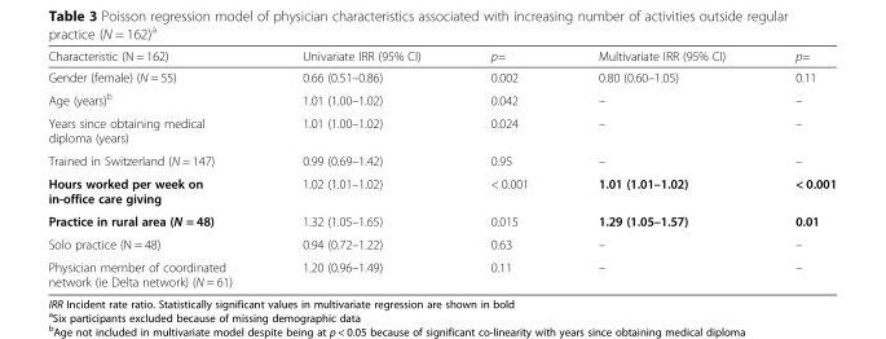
<table><thead><tr><td>Characteristic (N = 162)</td><td>Univariate IRR (95% CI)</td><td>p=</td><td>Multivariate IRR (95% CI)</td><td>p=</td></tr></thead><tbody><tr><td>Gender (female) (N = 55)</td><td>0.66 (0.51–0.86)</td><td>0.002</td><td>0.80 (0.60–1.05)</td><td>0.11</td></tr><tr><td>Age (years)<sup>b</sup></td><td>1.01 (1.00–1.02)</td><td>0.042</td><td>–</td><td>–</td></tr><tr><td>Years since obtaining medical diploma (years)</td><td>1.01 (1.00–1.02)</td><td>0.024</td><td>–</td><td>–</td></tr><tr><td>Trained in Switzerland (N = 147)</td><td>0.99 (0.69–1.42)</td><td>0.95</td><td>–</td><td>–</td></tr><tr><td>Hours worked per week on in-office care giving</td><td>1.02 (1.01–1.02)</td><td>&lt; 0.001</td><td>1.01 (1.01–1.02)</td><td>&lt; 0.001</td></tr><tr><td>Practice in rural area (N = 48)</td><td>1.32 (1.05–1.65)</td><td>0.015</td><td>1.29 (1.05–1.57)</td><td>0.01</td></tr><tr><td>Solo practice (N = 48)</td><td>0.94 (0.72–1.22)</td><td>0.63</td><td>–</td><td>–</td></tr><tr><td>Physician member of coordinated network (ie Delta network) (N = 61)</td><td>1.20 (0.96–1.49)</td><td>0.11</td><td>–</td><td>–</td></tr></tbody></table>